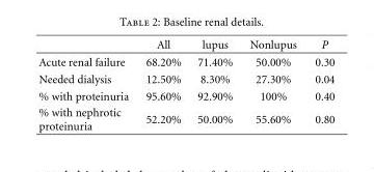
<table><thead><tr><td></td><td>All</td><td>lupus</td><td>Nonlupus</td><td>P</td></tr></thead><tbody><tr><td>Acute renal failure</td><td>68.20%</td><td>71.40%</td><td>50.00%</td><td>0.30</td></tr><tr><td>Needed dialysis</td><td>12.50%</td><td>8.30%</td><td>27.30%</td><td>0.04</td></tr><tr><td>% with proteinuria</td><td>95.60%</td><td>92.90%</td><td>100%</td><td>0.40</td></tr><tr><td>% with nephrotic proteinuria</td><td>52.20%</td><td>50.00%</td><td>55.60%</td><td>0.80</td></tr></tbody></table>